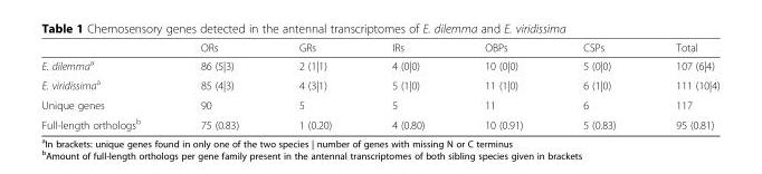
<table><thead><tr><td></td><td>ORs</td><td>GRs</td><td>IRs</td><td>OBPs</td><td>CSPs</td><td>Total</td></tr></thead><tbody><tr><td>E. dilemma<sup>a</sup></td><td>86 (5|3)</td><td>2 (1|1)</td><td>4 (0|0)</td><td>10 (0|0)</td><td>5 (0|0)</td><td>107 (6|4)</td></tr><tr><td>E. viridissima<sup>a</sup></td><td>85 (4|3)</td><td>4 (3|1)</td><td>5 (1|0)</td><td>11 (1|0)</td><td>6 (1|0)</td><td>111 (10|4)</td></tr><tr><td>Unique genes</td><td>90</td><td>5</td><td>5</td><td>11</td><td>6</td><td>117</td></tr><tr><td>Full-length orthologs<sup>b</sup></td><td>75 (0.83)</td><td>1 (0.20)</td><td>4 (0.80)</td><td>10 (0.91)</td><td>5 (0.83)</td><td>95 (0.81)</td></tr></tbody></table>